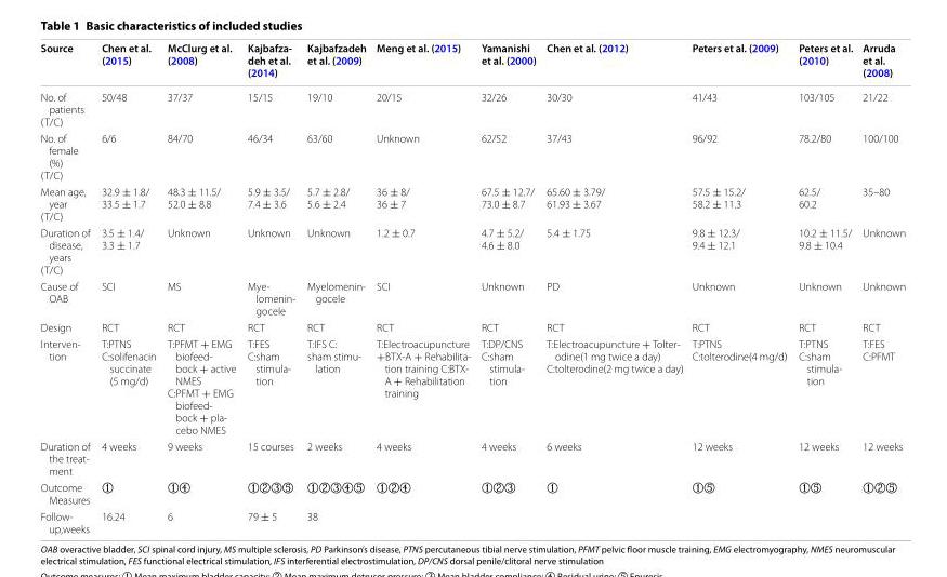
<table><thead><tr><td>Source</td><td>Chen et al. (2015)</td><td>McClurg et al. (2008)</td><td>Kajbafza- deh et al. (2014)</td><td>Kajbafzadeh et al. (2009)</td><td>Meng et al. (2015)</td><td>Yamanishi et al. (2000)</td><td>Chen et al. (2012)</td><td>Peters et al. (2009)</td><td>Peters et al. (2010)</td><td>Arruda et al. (2008)</td></tr></thead><tbody><tr><td>No. of patients (T/C)</td><td>50/48</td><td>37/37</td><td>15/15</td><td>19/10</td><td>20/15</td><td>32/26</td><td>30/30</td><td>41/43</td><td>103/105</td><td>21/22</td></tr><tr><td>No. of female (%) (T/C)</td><td>6/6</td><td>84/70</td><td>46/34</td><td>63/60</td><td>Unknown</td><td>62/52</td><td>37/43</td><td>96/92</td><td>78.2/80</td><td>100/100</td></tr><tr><td>Mean age, year (T/C)</td><td>32.9 ± 1.8/ 33.5 ± 1.7</td><td>48.3 ± 11.5/ 52.0 ± 8.8</td><td>5.9 ± 3.5/ 7.4 ± 3.6</td><td>5.7 ± 2.8/ 5.6 ± 2.4</td><td>36 ± 8/ 36 ± 7</td><td>67.5 ± 12.7/ 73.0 ± 8.7</td><td>65.60 ± 3.79/ 61.93 ± 3.67</td><td>57.5 ± 15.2/ 58.2 ± 11.3</td><td>62.5/ 60.2</td><td>35–80</td></tr><tr><td>Duration of disease, years (T/C)</td><td>3.5 ± 1.4/ 3.3 ± 1.7</td><td>Unknown</td><td>Unknown</td><td>Unknown</td><td>1.2 ± 0.7</td><td>4.7 ± 5.2/ 4.6 ± 8.0</td><td>5.4 ± 1.75</td><td>9.8 ± 12.3/ 9.4 ± 12.1</td><td>10.2 ± 11.5/ 9.8 ± 10.4</td><td>Unknown</td></tr><tr><td>Cause of OAB</td><td>SCI</td><td>MS</td><td>Mye- lomenin- gocele</td><td>Myelomenin- gocele</td><td>SCI</td><td>Unknown</td><td>PD</td><td>Unknown</td><td>Unknown</td><td>Unknown</td></tr><tr><td>Design</td><td>RCT</td><td>RCT</td><td>RCT</td><td>RCT</td><td>RCT</td><td>RCT</td><td>RCT</td><td>RCT</td><td>RCT</td><td>RCT</td></tr><tr><td>Interven- tion</td><td>T:PTNS C:solifenacin succinate (5 mg/d)</td><td>T:PFMT + EMG biofeed- bock + active NMES C:PFMT + EMG biofeed- bock + pla- cebo NMES</td><td>T:FES C:sham stimula- tion</td><td>T:IFS C: sham stimu- lation</td><td>T:Electroacupuncture +BTX-A + Rehabilita- tion training C:BTX- A + Rehabilitation training</td><td>T:DP/CNS C:sham stimula- tion</td><td>T:Electroacupuncture + Tolter- odine(1 mg twice a day) C:tolterodine(2 mg twice a day)</td><td>T:PTNS C:tolterodine(4 mg/d)</td><td>T:PTNS C:sham stimula- tion</td><td>T:FES C:PFMT</td></tr><tr><td>Duration of the treat- ment</td><td>4 weeks</td><td>9 weeks</td><td>15 courses</td><td>2 weeks</td><td>4 weeks</td><td>4 weeks</td><td>6 weeks</td><td>12 weeks</td><td>12 weeks</td><td>12 weeks</td></tr><tr><td>Outcome Measures</td><td>①</td><td>①④</td><td>①②③⑤</td><td>①②③④⑤</td><td>①②④</td><td>①②③</td><td>①</td><td>①⑤</td><td>①⑤</td><td>①②⑤</td></tr><tr><td>Follow- up,weeks</td><td>16.24</td><td>6</td><td>79 ± 5</td><td>38</td><td></td><td></td><td></td><td></td><td></td><td></td></tr></tbody></table>